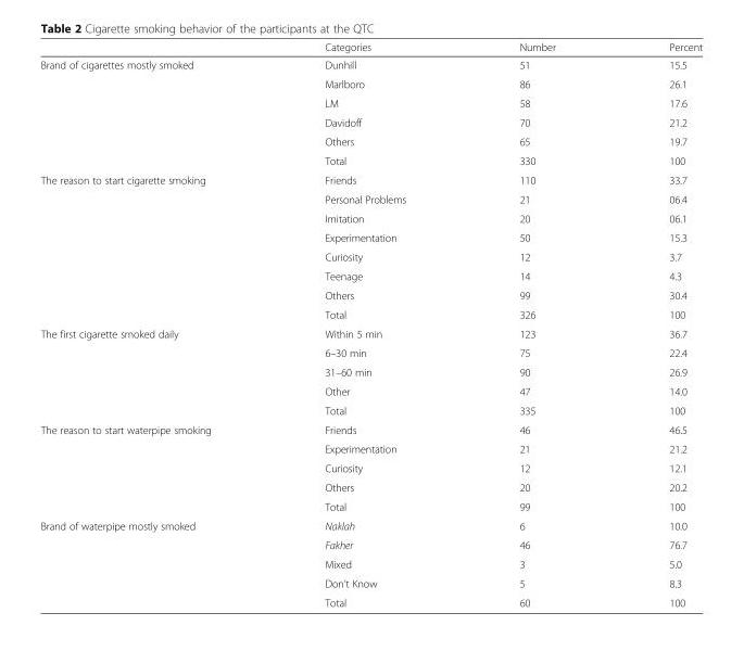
<table><thead><tr><td></td><td>Categories</td><td>Number</td><td>Percent</td></tr></thead><tbody><tr><td rowspan="6">Brand of cigarettes mostly smoked</td><td>Dunhill</td><td>51</td><td>15.5</td></tr><tr><td>Marlboro</td><td>86</td><td>26.1</td></tr><tr><td>LM</td><td>58</td><td>17.6</td></tr><tr><td>Davidoff</td><td>70</td><td>21.2</td></tr><tr><td>Others</td><td>65</td><td>19.7</td></tr><tr><td>Total</td><td>330</td><td>100</td></tr><tr><td rowspan="8">The reason to start cigarette smoking</td><td>Friends</td><td>110</td><td>33.7</td></tr><tr><td>Personal Problems</td><td>21</td><td>06.4</td></tr><tr><td>Imitation</td><td>20</td><td>06.1</td></tr><tr><td>Experimentation</td><td>50</td><td>15.3</td></tr><tr><td>Curiosity</td><td>12</td><td>3.7</td></tr><tr><td>Teenage</td><td>14</td><td>4.3</td></tr><tr><td>Others</td><td>99</td><td>30.4</td></tr><tr><td>Total</td><td>326</td><td>100</td></tr><tr><td rowspan="5">The first cigarette smoked daily</td><td>Within 5 min</td><td>123</td><td>36.7</td></tr><tr><td>6–30 min</td><td>75</td><td>22.4</td></tr><tr><td>31–60 min</td><td>90</td><td>26.9</td></tr><tr><td>Other</td><td>47</td><td>14.0</td></tr><tr><td>Total</td><td>335</td><td>100</td></tr><tr><td rowspan="5">The reason to start waterpipe smoking</td><td>Friends</td><td>46</td><td>46.5</td></tr><tr><td>Experimentation</td><td>21</td><td>21.2</td></tr><tr><td>Curiosity</td><td>12</td><td>12.1</td></tr><tr><td>Others</td><td>20</td><td>20.2</td></tr><tr><td>Total</td><td>99</td><td>100</td></tr><tr><td rowspan="5">Brand of waterpipe mostly smoked</td><td>Naklah</td><td>6</td><td>10.0</td></tr><tr><td>Fakher</td><td>46</td><td>76.7</td></tr><tr><td>Mixed</td><td>3</td><td>5.0</td></tr><tr><td>Don’t Know</td><td>5</td><td>8.3</td></tr><tr><td>Total</td><td>60</td><td>100</td></tr></tbody></table>